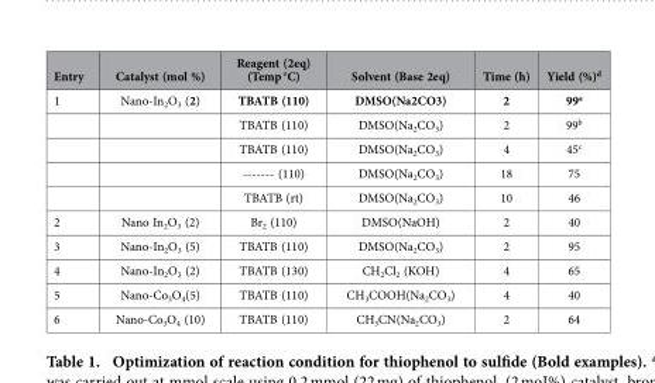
<table><thead><tr><td>Entry</td><td>Catalyst (mol %)</td><td>Reagent (2eq) (Temp °C)</td><td>Solvent (Base 2eq)</td><td>Time (h)</td><td>Yield (%)<sup>d</sup></td></tr></thead><tbody><tr><td rowspan="5">1</td><td>Nano-In<sub>2</sub>O<sub>3</sub> (2)</td><td>TBATB (110)</td><td>DMSO(Na<sub>2</sub>CO<sub>3</sub>)</td><td>2</td><td>99<sup>a</sup></td></tr><tr><td></td><td>TBATB (110)</td><td>DMSO(Na<sub>2</sub>CO<sub>3</sub>)</td><td>2</td><td>99<sup>b</sup></td></tr><tr><td></td><td>TBATB (110)</td><td>DMSO(Na<sub>2</sub>CO<sub>3</sub>)</td><td>4</td><td>45<sup>c</sup></td></tr><tr><td></td><td>------- (110)</td><td>DMSO(Na<sub>2</sub>CO<sub>3</sub>)</td><td>18</td><td>75</td></tr><tr><td></td><td>TBATB (rt)</td><td>DMSO(Na<sub>2</sub>CO<sub>3</sub>)</td><td>10</td><td>46</td></tr><tr><td>2</td><td>Nano In<sub>2</sub>O<sub>3</sub> (2)</td><td>Br<sub>2</sub> (110)</td><td>DMSO(NaOH)</td><td>2</td><td>40</td></tr><tr><td>3</td><td>Nano-In<sub>2</sub>O<sub>3</sub> (5)</td><td>TBATB (110)</td><td>DMSO(Na<sub>2</sub>CO<sub>3</sub>)</td><td>2</td><td>95</td></tr><tr><td>4</td><td>Nano-In<sub>2</sub>O<sub>3</sub> (2)</td><td>TBATB (130)</td><td>CH<sub>2</sub>Cl<sub>2</sub> (KOH)</td><td>4</td><td>65</td></tr><tr><td>5</td><td>Nano-Co<sub>3</sub>O<sub>4</sub>(5)</td><td>TBATB (110)</td><td>CH<sub>3</sub>COOH(Na<sub>2</sub>CO<sub>3</sub>)</td><td>4</td><td>40</td></tr><tr><td>6</td><td>Nano-Co<sub>3</sub>O<sub>4</sub> (10)</td><td>TBATB (110)</td><td>CH<sub>3</sub>CN(Na<sub>2</sub>CO<sub>3</sub>)</td><td>2</td><td>64</td></tr></tbody></table>